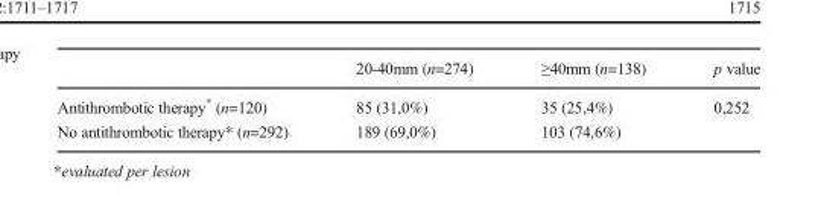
<table><thead><tr><td></td><td>20-40mm (n=274)</td><td>≥40mm (n=138)</td><td>p value</td></tr></thead><tbody><tr><td>Antithrombotic therapy* (n=120)</td><td>85 (31,0%)</td><td>35 (25,4%)</td><td>0,252</td></tr><tr><td>No antithrombotic therapy* (n=292)</td><td>189 (69,0%)</td><td>103 (74,6%)</td><td></td></tr></tbody></table>